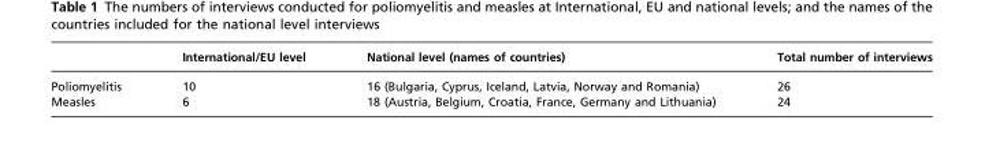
<table><thead><tr><td></td><td>International/EU level</td><td>National level (names of countries)</td><td>Total number of interviews</td></tr></thead><tbody><tr><td>Poliomyelitis</td><td>10</td><td>16 (Bulgaria, Cyprus, Iceland, Latvia, Norway and Romania)</td><td>26</td></tr><tr><td>Measles</td><td>6</td><td>18 (Austria, Belgium, Croatia, France, Germany and Lithuania)</td><td>24</td></tr></tbody></table>